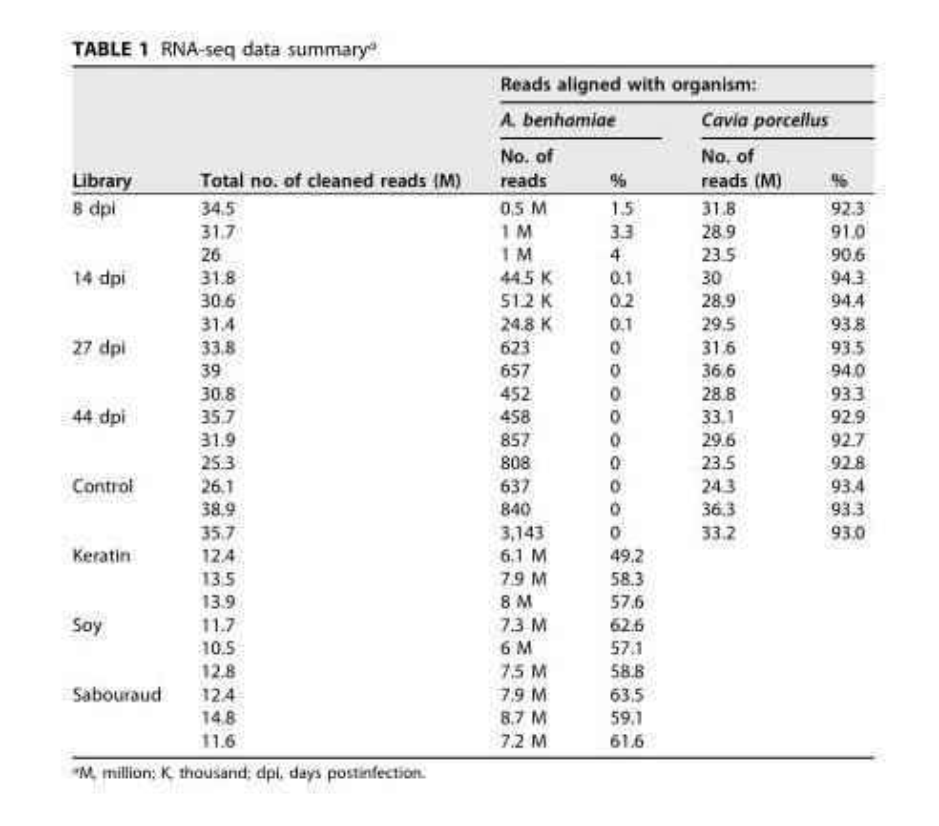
<table><thead><tr><td rowspan="3">Library</td><td rowspan="3">Total no. of cleaned reads (M)</td><td colspan="4">Reads aligned with organism:</td></tr><tr><td colspan="2">A. benhamiae</td><td colspan="2">Cavia porcellus</td></tr><tr><td>No. of reads</td><td>%</td><td>No. of reads (M)</td><td>%</td></tr></thead><tbody><tr><td rowspan="3">8 dpi</td><td>34.5</td><td>0.5 M</td><td>1.5</td><td>31.8</td><td>92.3</td></tr><tr><td>31.7</td><td>1 M</td><td>3.3</td><td>28.9</td><td>91.0</td></tr><tr><td>26</td><td>1 M</td><td>4</td><td>23.5</td><td>90.6</td></tr><tr><td rowspan="3">14 dpi</td><td>31.8</td><td>44.5 K</td><td>0.1</td><td>30</td><td>94.3</td></tr><tr><td>30.6</td><td>51.2 K</td><td>0.2</td><td>28.9</td><td>94.4</td></tr><tr><td>31.4</td><td>24.8 K</td><td>0.1</td><td>29.5</td><td>93.8</td></tr><tr><td rowspan="3">27 dpi</td><td>33.8</td><td>623</td><td>0</td><td>31.6</td><td>93.5</td></tr><tr><td>39</td><td>657</td><td>0</td><td>36.6</td><td>94.0</td></tr><tr><td>30.8</td><td>452</td><td>0</td><td>28.8</td><td>93.3</td></tr><tr><td rowspan="3">44 dpi</td><td>35.7</td><td>458</td><td>0</td><td>33.1</td><td>92.9</td></tr><tr><td>31.9</td><td>857</td><td>0</td><td>29.6</td><td>92.7</td></tr><tr><td>25.3</td><td>808</td><td>0</td><td>23.5</td><td>92.8</td></tr><tr><td rowspan="3">Control</td><td>26.1</td><td>637</td><td>0</td><td>24.3</td><td>93.4</td></tr><tr><td>38.9</td><td>840</td><td>0</td><td>36.3</td><td>93.3</td></tr><tr><td>35.7</td><td>3,143</td><td>0</td><td>33.2</td><td>93.0</td></tr><tr><td rowspan="3">Keratin</td><td>12.4</td><td>6.1 M</td><td>49.2</td><td></td><td></td></tr><tr><td>13.5</td><td>7.9 M</td><td>58.3</td><td></td><td></td></tr><tr><td>13.9</td><td>8 M</td><td>57.6</td><td></td><td></td></tr><tr><td rowspan="3">Soy</td><td>11.7</td><td>7.3 M</td><td>62.6</td><td></td><td></td></tr><tr><td>10.5</td><td>6 M</td><td>57.1</td><td></td><td></td></tr><tr><td>12.8</td><td>7.5 M</td><td>58.8</td><td></td><td></td></tr><tr><td rowspan="3">Sabouraud</td><td>12.4</td><td>7.9 M</td><td>63.5</td><td></td><td></td></tr><tr><td>14.8</td><td>8.7 M</td><td>59.1</td><td></td><td></td></tr><tr><td>11.6</td><td>7.2 M</td><td>61.6</td><td></td><td></td></tr></tbody></table>